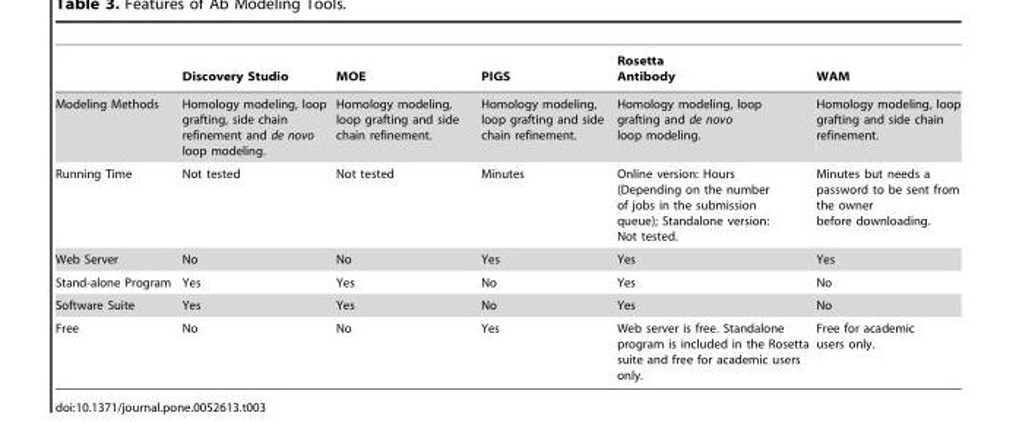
<table><thead><tr><td></td><td>Discovery Studio</td><td>MOE</td><td>PIGS</td><td>Rosetta Antibody</td><td>WAM</td></tr></thead><tbody><tr><td>Modeling Methods</td><td>Homology modeling, loop grafting, side chain refinement and de novo loop modeling.</td><td>Homology modeling, loop grafting and side chain refinement.</td><td>Homology modeling, loop grafting and side chain refinement.</td><td>Homology modeling, loop grafting and de novo loop modeling.</td><td>Homology modeling, loop grafting and side chain refinement.</td></tr><tr><td>Running Time</td><td>Not tested</td><td>Not tested</td><td>Minutes</td><td>Online version: Hours (Depending on the number of jobs in the submission queue); Standalone version: Not tested.</td><td>Minutes but needs a password to be sent from the owner before downloading.</td></tr><tr><td>Web Server</td><td>No</td><td>No</td><td>Yes</td><td>Yes</td><td>Yes</td></tr><tr><td>Stand-alone Program</td><td>Yes</td><td>Yes</td><td>No</td><td>Yes</td><td>No</td></tr><tr><td>Software Suite</td><td>Yes</td><td>Yes</td><td>No</td><td>Yes</td><td>No</td></tr><tr><td>Free</td><td>No</td><td>No</td><td>Yes</td><td>Web server is free. Standalone program is included in the Rosetta suite and free for academic users only.</td><td>Free for academic users only.</td></tr></tbody></table>